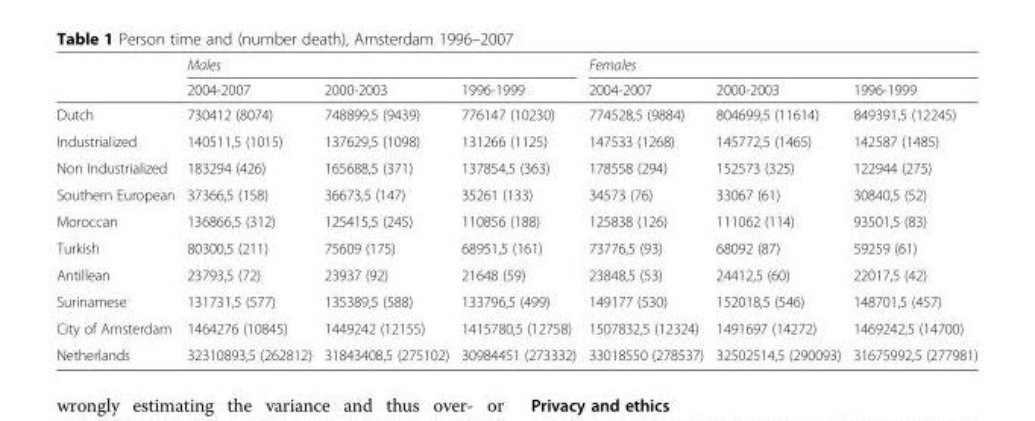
<table><thead><tr><td rowspan="2"></td><td colspan="3">Males</td><td colspan="3">Females</td></tr><tr><td>2004-2007</td><td>2000-2003</td><td>1996-1999</td><td>2004-2007</td><td>2000-2003</td><td>1996-1999</td></tr></thead><tbody><tr><td>Dutch</td><td>730412 (8074)</td><td>748899,5 (9439)</td><td>776147 (10230)</td><td>774528,5 (9884)</td><td>804699,5 (11614)</td><td>849391,5 (12245)</td></tr><tr><td>Industrialized</td><td>140511,5 (1015)</td><td>137629,5 (1098)</td><td>131266 (1125)</td><td>147533 (1268)</td><td>145772,5 (1465)</td><td>142587 (1485)</td></tr><tr><td>Non Industrialized</td><td>183294 (426)</td><td>165688,5 (371)</td><td>137854,5 (363)</td><td>178558 (294)</td><td>152573 (325)</td><td>122944 (275)</td></tr><tr><td>Southern European</td><td>37366,5 (158)</td><td>36673,5 (147)</td><td>35261 (133)</td><td>34573 (76)</td><td>33067 (61)</td><td>30840,5 (52)</td></tr><tr><td>Moroccan</td><td>136866,5 (312)</td><td>125415,5 (245)</td><td>110856 (188)</td><td>125838 (126)</td><td>111062 (114)</td><td>93501,5 (83)</td></tr><tr><td>Turkish</td><td>80300,5 (211)</td><td>75609 (175)</td><td>68951,5 (161)</td><td>73776,5 (93)</td><td>68092 (87)</td><td>59259 (61)</td></tr><tr><td>Antillean</td><td>23793,5 (72)</td><td>23937 (92)</td><td>21648 (59)</td><td>23848,5 (53)</td><td>24412,5 (60)</td><td>22017,5 (42)</td></tr><tr><td>Surinamese</td><td>131731,5 (577)</td><td>135389,5 (588)</td><td>133796,5 (499)</td><td>149177 (530)</td><td>152018,5 (546)</td><td>148701,5 (457)</td></tr><tr><td>City of Amsterdam</td><td>1464276 (10845)</td><td>1449242 (12155)</td><td>1415780,5 (12758)</td><td>1507832,5 (12324)</td><td>1491697 (14272)</td><td>1469242,5 (14700)</td></tr><tr><td>Netherlands</td><td>32310893,5 (262812)</td><td>31843408,5 (275102)</td><td>30984451 (273332)</td><td>33018550 (278537)</td><td>32502514,5 (290093)</td><td>31675992,5 (277981)</td></tr></tbody></table>